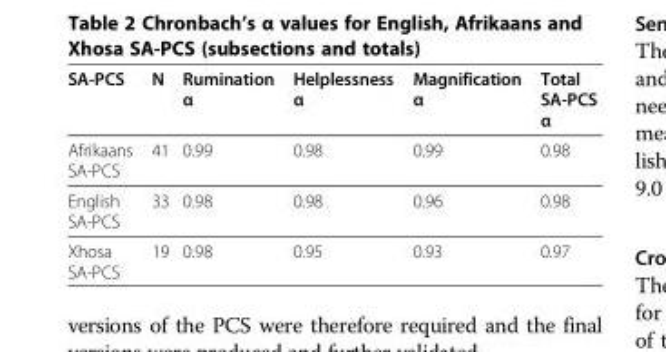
<table><thead><tr><td>SA-PCS</td><td>N</td><td>Rumination α</td><td>Helplessness α</td><td>Magnification α</td><td>Total SA-PCS α</td></tr></thead><tbody><tr><td>Afrikaans SA-PCS</td><td>41</td><td>0.99</td><td>0.98</td><td>0.99</td><td>0.98</td></tr><tr><td>English SA-PCS</td><td>33</td><td>0.98</td><td>0.98</td><td>0.96</td><td>0.98</td></tr><tr><td>Xhosa SA-PCS</td><td>19</td><td>0.98</td><td>0.95</td><td>0.93</td><td>0.97</td></tr></tbody></table>